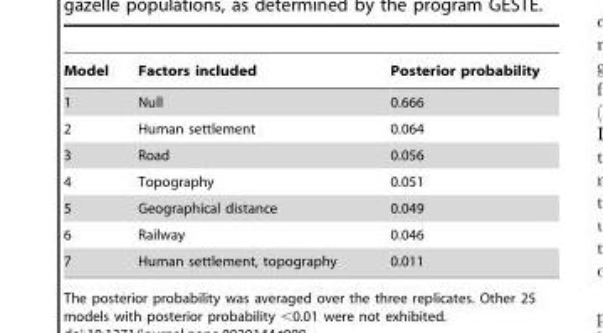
<table><thead><tr><td>Model</td><td>Factors included</td><td>Posterior probability</td></tr></thead><tbody><tr><td>1</td><td>Null</td><td>0.666</td></tr><tr><td>2</td><td>Human settlement</td><td>0.064</td></tr><tr><td>3</td><td>Road</td><td>0.056</td></tr><tr><td>4</td><td>Topography</td><td>0.051</td></tr><tr><td>5</td><td>Geographical distance</td><td>0.049</td></tr><tr><td>6</td><td>Railway</td><td>0.046</td></tr><tr><td>7</td><td>Human settlement, topography</td><td>0.011</td></tr></tbody></table>